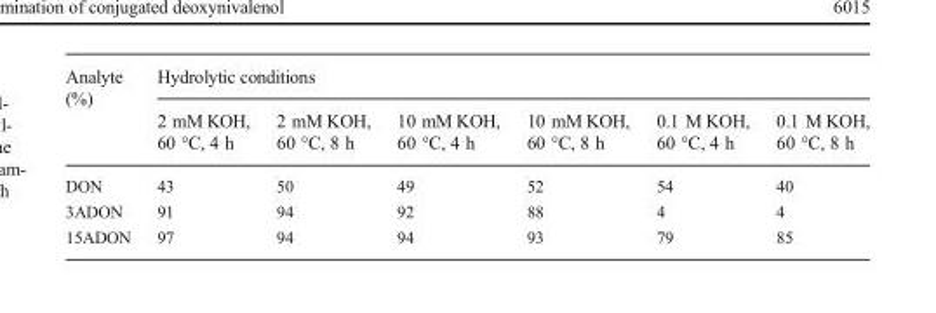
<table><thead><tr><td rowspan="2">Analyte (%)</td><td colspan="6">Hydrolytic conditions</td></tr><tr><td>2 mM KOH, 60 °C, 4 h</td><td>2 mM KOH, 60 °C, 8 h</td><td>10 mM KOH, 60 °C, 4 h</td><td>10 mM KOH, 60 °C, 8 h</td><td>0.1 M KOH, 60 °C, 4 h</td><td>0.1 M KOH, 60 °C, 8 h</td></tr></thead><tbody><tr><td>DON</td><td>43</td><td>50</td><td>49</td><td>52</td><td>54</td><td>40</td></tr><tr><td>3ADON</td><td>91</td><td>94</td><td>92</td><td>88</td><td>4</td><td>4</td></tr><tr><td>15ADON</td><td>97</td><td>94</td><td>94</td><td>93</td><td>79</td><td>85</td></tr></tbody></table>